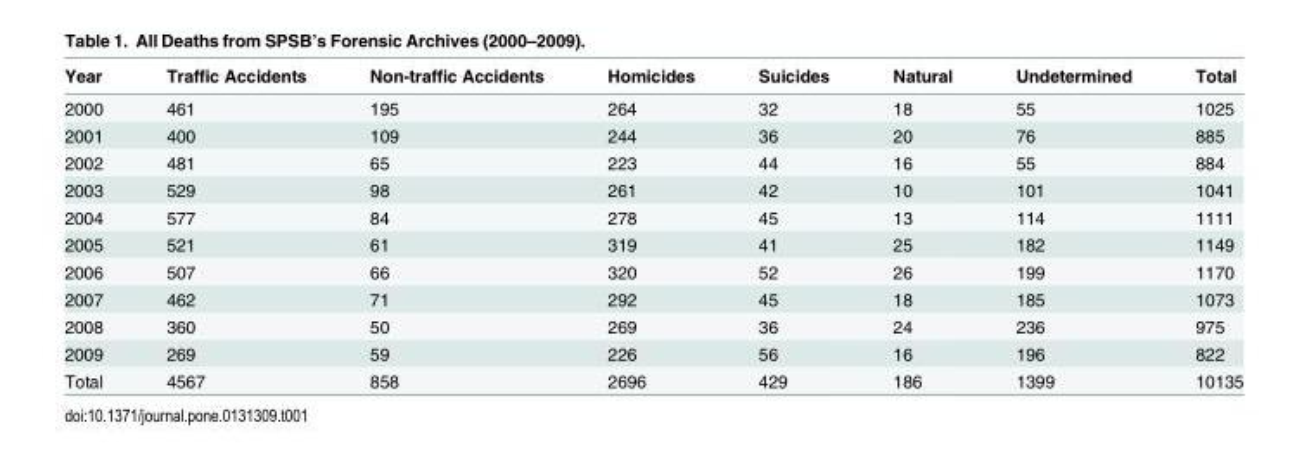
<table><thead><tr><td>Year</td><td>Traffic Accidents</td><td>Non-traffic Accidents</td><td>Homicides</td><td>Suicides</td><td>Natural</td><td>Undetermined</td><td>Total</td></tr></thead><tbody><tr><td>2000</td><td>461</td><td>195</td><td>264</td><td>32</td><td>18</td><td>55</td><td>1025</td></tr><tr><td>2001</td><td>400</td><td>109</td><td>244</td><td>36</td><td>20</td><td>76</td><td>885</td></tr><tr><td>2002</td><td>481</td><td>65</td><td>223</td><td>44</td><td>16</td><td>55</td><td>884</td></tr><tr><td>2003</td><td>529</td><td>98</td><td>261</td><td>42</td><td>10</td><td>101</td><td>1041</td></tr><tr><td>2004</td><td>577</td><td>84</td><td>278</td><td>45</td><td>13</td><td>114</td><td>1111</td></tr><tr><td>2005</td><td>521</td><td>61</td><td>319</td><td>41</td><td>25</td><td>182</td><td>1149</td></tr><tr><td>2006</td><td>507</td><td>66</td><td>320</td><td>52</td><td>26</td><td>199</td><td>1170</td></tr><tr><td>2007</td><td>462</td><td>71</td><td>292</td><td>45</td><td>18</td><td>185</td><td>1073</td></tr><tr><td>2008</td><td>360</td><td>50</td><td>269</td><td>36</td><td>24</td><td>236</td><td>975</td></tr><tr><td>2009</td><td>269</td><td>59</td><td>226</td><td>56</td><td>16</td><td>196</td><td>822</td></tr><tr><td>Total</td><td>4567</td><td>858</td><td>2696</td><td>429</td><td>186</td><td>1399</td><td>10135</td></tr></tbody></table>